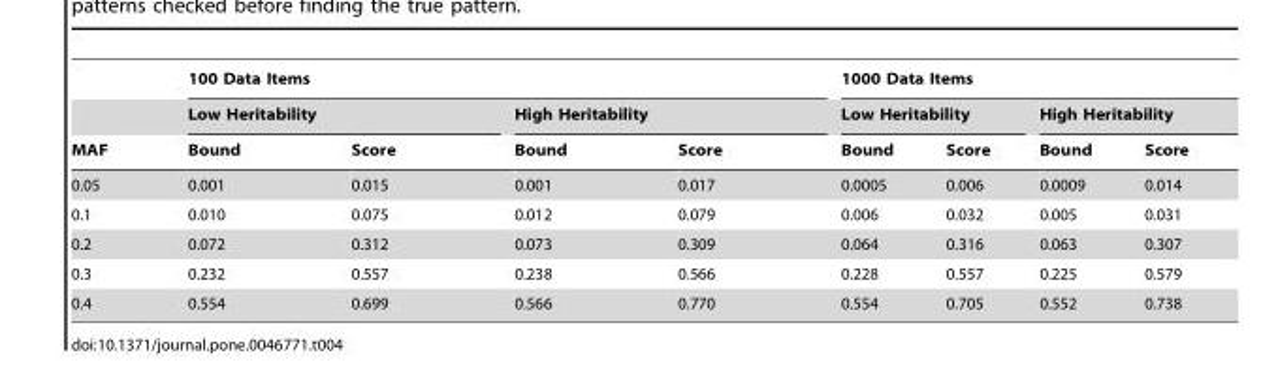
<table><thead><tr><td rowspan="3">MAF</td><td colspan="4">100 Data Items</td><td colspan="4">1000 Data Items</td></tr><tr><td colspan="2">Low Heritability</td><td colspan="2">High Heritability</td><td colspan="2">Low Heritability</td><td colspan="2">High Heritability</td></tr><tr><td>Bound</td><td>Score</td><td>Bound</td><td>Score</td><td>Bound</td><td>Score</td><td>Bound</td><td>Score</td></tr></thead><tbody><tr><td>0.05</td><td>0.001</td><td>0.015</td><td>0.001</td><td>0.017</td><td>0.0005</td><td>0.006</td><td>0.0009</td><td>0.014</td></tr><tr><td>0.1</td><td>0.010</td><td>0.075</td><td>0.012</td><td>0.079</td><td>0.006</td><td>0.032</td><td>0.005</td><td>0.031</td></tr><tr><td>0.2</td><td>0.072</td><td>0.312</td><td>0.073</td><td>0.309</td><td>0.064</td><td>0.316</td><td>0.063</td><td>0.307</td></tr><tr><td>0.3</td><td>0.232</td><td>0.557</td><td>0.238</td><td>0.566</td><td>0.228</td><td>0.557</td><td>0.225</td><td>0.579</td></tr><tr><td>0.4</td><td>0.554</td><td>0.699</td><td>0.566</td><td>0.770</td><td>0.554</td><td>0.705</td><td>0.552</td><td>0.738</td></tr></tbody></table>